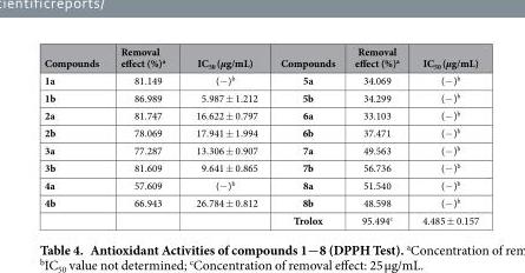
<table><thead><tr><td>Compounds</td><td>Removal effect (%)<sup>a</sup></td><td>IC<sub>50</sub> (μg/mL)</td><td>Compounds</td><td>Removal effect (%)<sup>a</sup></td><td>IC<sub>50</sub> (μg/mL)</td></tr></thead><tbody><tr><td>1a</td><td>81.149</td><td>(− )<sup>b</sup></td><td>5a</td><td>34.069</td><td>(− )<sup>b</sup></td></tr><tr><td>1b</td><td>86.989</td><td>5.987 ± 1.212</td><td>5b</td><td>34.299</td><td>(− )<sup>b</sup></td></tr><tr><td>2a</td><td>81.747</td><td>16.622 ± 0.797</td><td>6a</td><td>33.103</td><td>(− )<sup>b</sup></td></tr><tr><td>2b</td><td>78.069</td><td>17.941 ± 1.994</td><td>6b</td><td>37.471</td><td>(− )<sup>b</sup></td></tr><tr><td>3a</td><td>77.287</td><td>13.306 ± 0.907</td><td>7a</td><td>49.563</td><td>(− )<sup>b</sup></td></tr><tr><td>3b</td><td>81.609</td><td>9.641 ± 0.865</td><td>7b</td><td>56.736</td><td>(− )<sup>b</sup></td></tr><tr><td>4a</td><td>57.609</td><td>(− )<sup>b</sup></td><td>8a</td><td>51.540</td><td>(− )<sup>b</sup></td></tr><tr><td rowspan="2">4b</td><td>66.943</td><td>26.784 ± 0.812</td><td>8b</td><td>48.598</td><td>(− )<sup>b</sup></td></tr><tr><td></td><td></td><td>Trolox</td><td>95.494<sup>c</sup></td><td>4.485 ± 0.157</td></tr></tbody></table>